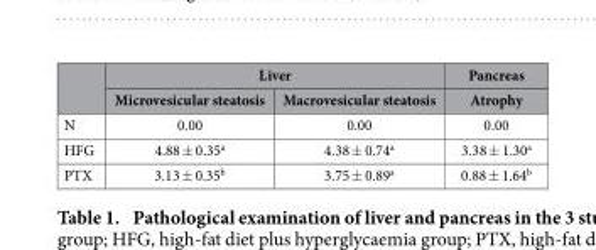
<table><thead><tr><td rowspan="2"></td><td colspan="2">Liver</td><td rowspan="2">Pancreas Atrophy</td></tr><tr><td>Microvesicular steatosis</td><td>Macrovesicular steatosis</td></tr></thead><tbody><tr><td>N</td><td>0.00</td><td>0.00</td><td>0.00</td></tr><tr><td>HFG</td><td>4.88 ± 0.35<sup>a</sup></td><td>4.38 ± 0.74<sup>a</sup></td><td>3.38 ± 1.30<sup>a</sup></td></tr><tr><td>PTX</td><td>3.13 ± 0.35<sup>b</sup></td><td>3.75 ± 0.89<sup>a</sup></td><td>0.88 ± 1.64<sup>b</sup></td></tr></tbody></table>